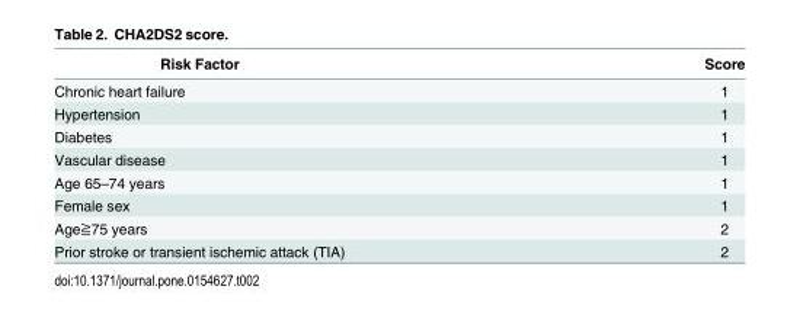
<table><thead><tr><td>Risk Factor</td><td>Score</td></tr></thead><tbody><tr><td>Chronic heart failure</td><td>1</td></tr><tr><td>Hypertension</td><td>1</td></tr><tr><td>Diabetes</td><td>1</td></tr><tr><td>Vascular disease</td><td>1</td></tr><tr><td>Age 65–74 years</td><td>1</td></tr><tr><td>Female sex</td><td>1</td></tr><tr><td>Age≧75 years</td><td>2</td></tr><tr><td>Prior stroke or transient ischemic attack (TIA)</td><td>2</td></tr></tbody></table>